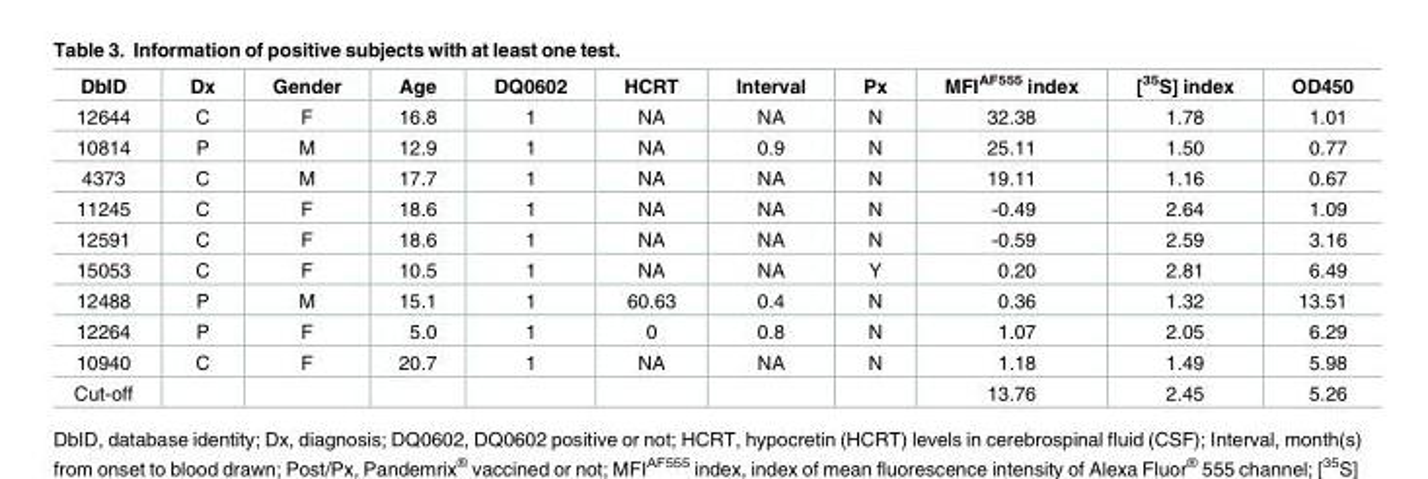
<table><thead><tr><td>DbID</td><td>Dx</td><td>Gender</td><td>Age</td><td>DQ0602</td><td>HCRT</td><td>Interval</td><td>Px</td><td>MFI<sup>AF555</sup> index</td><td>[<sup>35</sup>S] index</td><td>OD450</td></tr></thead><tbody><tr><td>12644</td><td>C</td><td>F</td><td>16.8</td><td>1</td><td>NA</td><td>NA</td><td>N</td><td>32.38</td><td>1.78</td><td>1.01</td></tr><tr><td>10814</td><td>P</td><td>M</td><td>12.9</td><td>1</td><td>NA</td><td>0.9</td><td>N</td><td>25.11</td><td>1.50</td><td>0.77</td></tr><tr><td>4373</td><td>C</td><td>M</td><td>17.7</td><td>1</td><td>NA</td><td>NA</td><td>N</td><td>19.11</td><td>1.16</td><td>0.67</td></tr><tr><td>11245</td><td>C</td><td>F</td><td>18.6</td><td>1</td><td>NA</td><td>NA</td><td>N</td><td>-0.49</td><td>2.64</td><td>1.09</td></tr><tr><td>12591</td><td>C</td><td>F</td><td>18.6</td><td>1</td><td>NA</td><td>NA</td><td>N</td><td>-0.59</td><td>2.59</td><td>3.16</td></tr><tr><td>15053</td><td>C</td><td>F</td><td>10.5</td><td>1</td><td>NA</td><td>NA</td><td>Y</td><td>0.20</td><td>2.81</td><td>6.49</td></tr><tr><td>12488</td><td>P</td><td>M</td><td>15.1</td><td>1</td><td>60.63</td><td>0.4</td><td>N</td><td>0.36</td><td>1.32</td><td>13.51</td></tr><tr><td>12264</td><td>P</td><td>F</td><td>5.0</td><td>1</td><td>0</td><td>0.8</td><td>N</td><td>1.07</td><td>2.05</td><td>6.29</td></tr><tr><td>10940</td><td>C</td><td>F</td><td>20.7</td><td>1</td><td>NA</td><td>NA</td><td>N</td><td>1.18</td><td>1.49</td><td>5.98</td></tr><tr><td>Cut-off</td><td></td><td></td><td></td><td></td><td></td><td></td><td></td><td>13.76</td><td>2.45</td><td>5.26</td></tr></tbody></table>